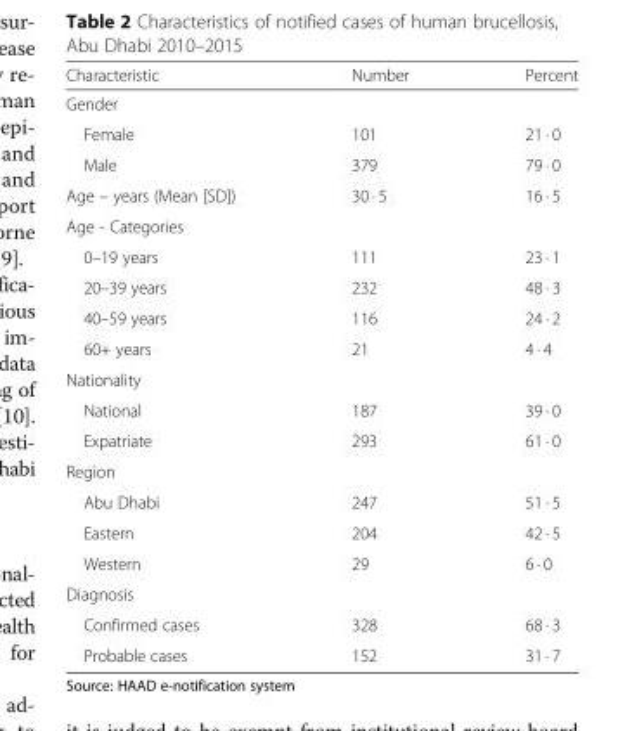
<table><thead><tr><td>Characteristic</td><td>Number</td><td>Percent</td></tr></thead><tbody><tr><td colspan="3">Gender</td></tr><tr><td>Female</td><td>101</td><td>21 · 0</td></tr><tr><td>Male</td><td>379</td><td>79 · 0</td></tr><tr><td>Age – years (Mean [SD])</td><td>30 · 5</td><td>16 · 5</td></tr><tr><td colspan="3">Age - Categories</td></tr><tr><td>0–19 years</td><td>111</td><td>23 · 1</td></tr><tr><td>20–39 years</td><td>232</td><td>48 · 3</td></tr><tr><td>40–59 years</td><td>116</td><td>24 · 2</td></tr><tr><td>60+ years</td><td>21</td><td>4 · 4</td></tr><tr><td colspan="3">Nationality</td></tr><tr><td>National</td><td>187</td><td>39 · 0</td></tr><tr><td>Expatriate</td><td>293</td><td>61 · 0</td></tr><tr><td colspan="3">Region</td></tr><tr><td>Abu Dhabi</td><td>247</td><td>51 · 5</td></tr><tr><td>Eastern</td><td>204</td><td>42 · 5</td></tr><tr><td>Western</td><td>29</td><td>6 · 0</td></tr><tr><td colspan="3">Diagnosis</td></tr><tr><td>Confirmed cases</td><td>328</td><td>68 · 3</td></tr><tr><td>Probable cases</td><td>152</td><td>31 · 7</td></tr></tbody></table>